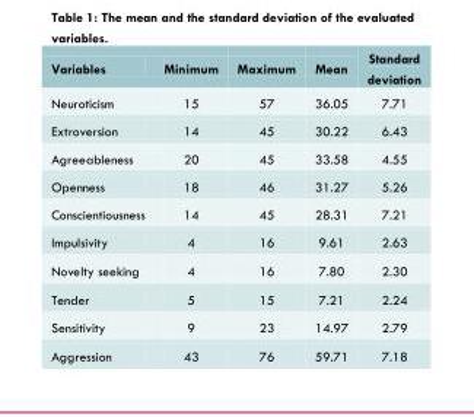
<table><thead><tr><td>Variables</td><td>Minimum</td><td>Maximum</td><td>Mean</td><td>Standard deviation</td></tr></thead><tbody><tr><td>Neuroticism</td><td>15</td><td>57</td><td>36.05</td><td>7.71</td></tr><tr><td>Extroversion</td><td>14</td><td>45</td><td>30.22</td><td>6.43</td></tr><tr><td>Agreeableness</td><td>20</td><td>45</td><td>33.58</td><td>4.55</td></tr><tr><td>Openness</td><td>18</td><td>46</td><td>31.27</td><td>5.26</td></tr><tr><td>Conscientiousness</td><td>14</td><td>45</td><td>28.31</td><td>7.21</td></tr><tr><td>Impulsivity</td><td>4</td><td>16</td><td>9.61</td><td>2.63</td></tr><tr><td>Novelty seeking</td><td>4</td><td>16</td><td>7.80</td><td>2.30</td></tr><tr><td>Tender</td><td>5</td><td>15</td><td>7.21</td><td>2.24</td></tr><tr><td>Sensitivity</td><td>9</td><td>23</td><td>14.97</td><td>2.79</td></tr><tr><td>Aggression</td><td>43</td><td>76</td><td>59.71</td><td>7.18</td></tr></tbody></table>